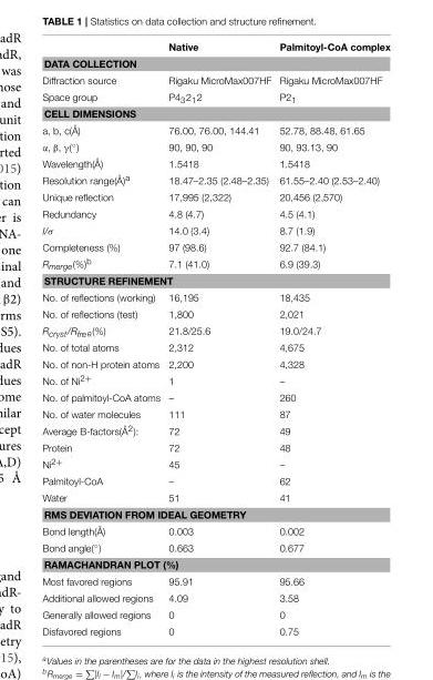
<table><thead><tr><td></td><td>Native</td><td>Palmitoyl-CoA complex</td></tr></thead><tbody><tr><td colspan="3">DATA COLLECTION</td></tr><tr><td>Diffraction source</td><td>Rigaku MicroMax007HF</td><td>Rigaku MicroMax007HF</td></tr><tr><td>Space group</td><td>P4<sub>3</sub>2<sub>1</sub>2</td><td>P2<sub>1</sub></td></tr><tr><td colspan="3">CELL DIMENSIONS</td></tr><tr><td>a, b, c(Å)</td><td>76.00, 76.00, 144.41</td><td>52.78, 88.48, 61.65</td></tr><tr><td>α, β, γ(◦)</td><td>90, 90, 90</td><td>90, 93.13, 90</td></tr><tr><td>Wavelength(Å)</td><td>1.5418</td><td>1.5418</td></tr><tr><td>Resolution range(Å)<sup>a</sup></td><td>18.47–2.35 (2.48–2.35)</td><td>61.55–2.40 (2.53–2.40)</td></tr><tr><td>Unique reflection</td><td>17,995 (2,322)</td><td>20,456 (2,570)</td></tr><tr><td>Redundancy</td><td>4.8 (4.7)</td><td>4.5 (4.1)</td></tr><tr><td>I/σ</td><td>14.0 (3.4)</td><td>8.7 (1.9)</td></tr><tr><td>Completeness (%)</td><td>97 (98.6)</td><td>92.7 (84.1)</td></tr><tr><td>Rmerge(%)b</td><td>7.1 (41.0)</td><td>6.9 (39.3)</td></tr><tr><td colspan="3">STRUCTURE REFINEMENT</td></tr><tr><td>No. of reflections (working)</td><td>16,195</td><td>18,435</td></tr><tr><td>No. of reflections (test)</td><td>1,800</td><td>2,021</td></tr><tr><td>Rcryst/Rfree(%)</td><td>21.8/25.6</td><td>19.0/24.7</td></tr><tr><td>No. of total atoms</td><td>2,312</td><td>4,675</td></tr><tr><td>No. of non-H protein atoms</td><td>2,200</td><td>4,328</td></tr><tr><td>No. of Ni<sup>2+</sup></td><td>1</td><td>–</td></tr><tr><td>No. of palmitoyl-CoA atoms</td><td>–</td><td>260</td></tr><tr><td>No. of water molecules</td><td>111</td><td>87</td></tr><tr><td>Average B-factors(Å<sup>2</sup>):</td><td>72</td><td>49</td></tr><tr><td>Protein</td><td>72</td><td>48</td></tr><tr><td>Ni<sup>2+</sup></td><td>45</td><td>–</td></tr><tr><td>Palmitoyl-CoA</td><td>–</td><td>62</td></tr><tr><td>Water</td><td>51</td><td>41</td></tr><tr><td colspan="3">RMS DEVIATION FROM IDEAL GEOMETRY</td></tr><tr><td>Bond length(Å)</td><td>0.003</td><td>0.002</td></tr><tr><td>Bond angle(◦)</td><td>0.663</td><td>0.677</td></tr><tr><td colspan="3">RAMACHANDRAN PLOT (%)</td></tr><tr><td>Most favored regions</td><td>95.91</td><td>95.66</td></tr><tr><td>Additional allowed regions</td><td>4.09</td><td>3.58</td></tr><tr><td>Generally allowed regions</td><td>0</td><td>0</td></tr><tr><td>Disfavored regions</td><td>0</td><td>0.75</td></tr></tbody></table>